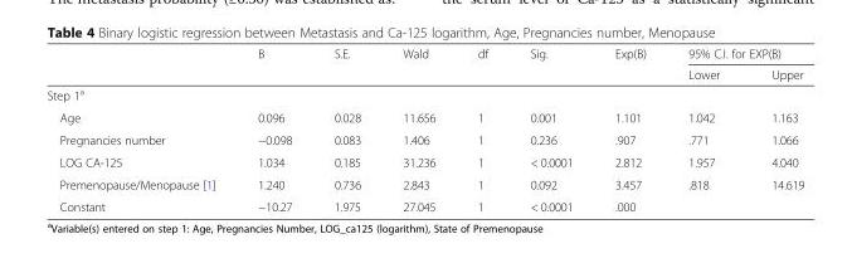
<table><thead><tr><td rowspan="2"></td><td rowspan="2">B</td><td rowspan="2">S.E.</td><td rowspan="2">Wald</td><td rowspan="2">df</td><td rowspan="2">Sig.</td><td rowspan="2">Exp(B)</td><td colspan="2">95% C.I. for EXP(B)</td></tr><tr><td>Lower</td><td>Upper</td></tr></thead><tbody><tr><td colspan="9">Step 1<sup>a</sup></td></tr><tr><td>Age</td><td>0.096</td><td>0.028</td><td>11.656</td><td>1</td><td>0.001</td><td>1.101</td><td>1.042</td><td>1.163</td></tr><tr><td>Pregnancies number</td><td>−0.098</td><td>0.083</td><td>1.406</td><td>1</td><td>0.236</td><td>.907</td><td>.771</td><td>1.066</td></tr><tr><td>LOG CA-125</td><td>1.034</td><td>0.185</td><td>31.236</td><td>1</td><td>&lt; 0.0001</td><td>2.812</td><td>1.957</td><td>4.040</td></tr><tr><td>Premenopause/Menopause [1]</td><td>1.240</td><td>0.736</td><td>2.843</td><td>1</td><td>0.092</td><td>3.457</td><td>.818</td><td>14.619</td></tr><tr><td>Constant</td><td>−10.27</td><td>1.975</td><td>27.045</td><td>1</td><td>&lt; 0.0001</td><td>.000</td><td></td><td></td></tr></tbody></table>